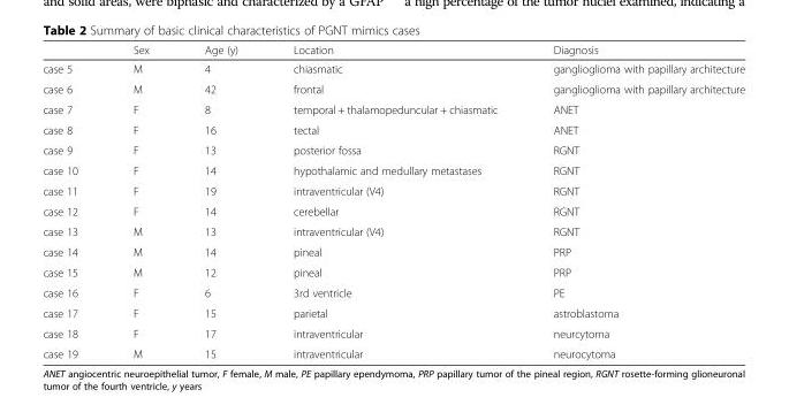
<table><thead><tr><td></td><td>Sex</td><td>Age (y)</td><td>Location</td><td>Diagnosis</td></tr></thead><tbody><tr><td>case 5</td><td>M</td><td>4</td><td>chiasmatic</td><td>ganglioglioma with papillary architecture</td></tr><tr><td>case 6</td><td>M</td><td>42</td><td>frontal</td><td>ganglioglioma with papillary architecture</td></tr><tr><td>case 7</td><td>F</td><td>8</td><td>temporal + thalamopeduncular + chiasmatic</td><td>ANET</td></tr><tr><td>case 8</td><td>F</td><td>16</td><td>tectal</td><td>ANET</td></tr><tr><td>case 9</td><td>F</td><td>13</td><td>posterior fossa</td><td>RGNT</td></tr><tr><td>case 10</td><td>F</td><td>14</td><td>hypothalamic and medullary metastases</td><td>RGNT</td></tr><tr><td>case 11</td><td>F</td><td>19</td><td>intraventricular (V4)</td><td>RGNT</td></tr><tr><td>case 12</td><td>F</td><td>14</td><td>cerebellar</td><td>RGNT</td></tr><tr><td>case 13</td><td>M</td><td>13</td><td>intraventricular (V4)</td><td>RGNT</td></tr><tr><td>case 14</td><td>M</td><td>14</td><td>pineal</td><td>PRP</td></tr><tr><td>case 15</td><td>M</td><td>12</td><td>pineal</td><td>PRP</td></tr><tr><td>case 16</td><td>F</td><td>6</td><td>3rd ventricle</td><td>PE</td></tr><tr><td>case 17</td><td>F</td><td>15</td><td>parietal</td><td>astroblastoma</td></tr><tr><td>case 18</td><td>F</td><td>17</td><td>intraventricular</td><td>neurcytoma</td></tr><tr><td>case 19</td><td>M</td><td>15</td><td>intraventricular</td><td>neurocytoma</td></tr></tbody></table>